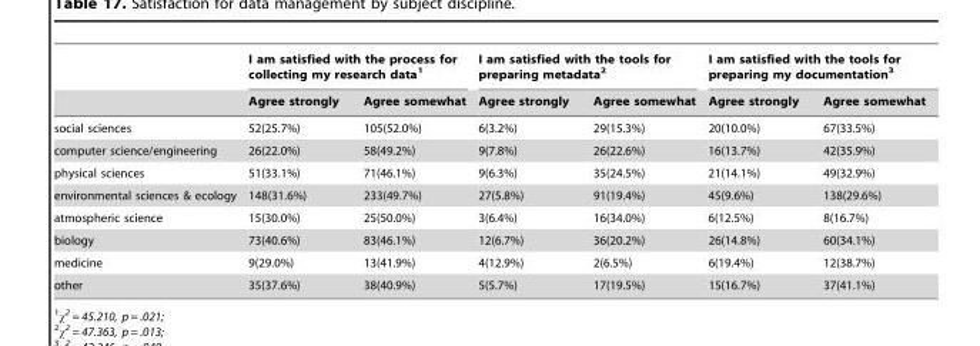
<table><thead><tr><td rowspan="2"></td><td colspan="2">I am satisfied with the process for collecting my research data<sup>1</sup></td><td colspan="2">I am satisfied with the tools for preparing metadata<sup>2</sup></td><td colspan="2">I am satisfied with the tools for preparing my documentation<sup>3</sup></td></tr><tr><td>Agree strongly</td><td>Agree somewhat</td><td>Agree strongly</td><td>Agree somewhat</td><td>Agree strongly</td><td>Agree somewhat</td></tr></thead><tbody><tr><td>social sciences</td><td>52(25.7%)</td><td>105(52.0%)</td><td>6(3.2%)</td><td>29(15.3%)</td><td>20(10.0%)</td><td>67(33.5%)</td></tr><tr><td>computer science/engineering</td><td>26(22.0%)</td><td>58(49.2%)</td><td>9(7.8%)</td><td>26(22.6%)</td><td>16(13.7%)</td><td>42(35.9%)</td></tr><tr><td>physical sciences</td><td>51(33.1%)</td><td>71(46.1%)</td><td>9(6.3%)</td><td>35(24.5%)</td><td>21(14.1%)</td><td>49(32.9%)</td></tr><tr><td>environmental sciences &amp; ecology</td><td>148(31.6%)</td><td>233(49.7%)</td><td>27(5.8%)</td><td>91(19.4%)</td><td>45(9.6%)</td><td>138(29.6%)</td></tr><tr><td>atmospheric science</td><td>15(30.0%)</td><td>25(50.0%)</td><td>3(6.4%)</td><td>16(34.0%)</td><td>6(12.5%)</td><td>8(16.7%)</td></tr><tr><td>biology</td><td>73(40.6%)</td><td>83(46.1%)</td><td>12(6.7%)</td><td>36(20.2%)</td><td>26(14.8%)</td><td>60(34.1%)</td></tr><tr><td>medicine</td><td>9(29.0%)</td><td>13(41.9%)</td><td>4(12.9%)</td><td>2(6.5%)</td><td>6(19.4%)</td><td>12(38.7%)</td></tr><tr><td>other</td><td>35(37.6%)</td><td>38(40.9%)</td><td>5(5.7%)</td><td>17(19.5%)</td><td>15(16.7%)</td><td>37(41.1%)</td></tr></tbody></table>